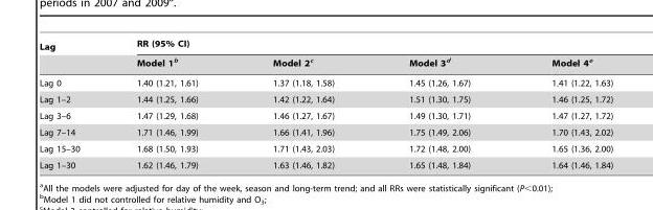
<table><thead><tr><td rowspan="2">Lag</td><td colspan="4">RR (95% CI)</td></tr><tr><td>Model 1<sup>b</sup></td><td>Model 2<sup>c</sup></td><td>Model 3<sup>d</sup></td><td>Model 4<sup>e</sup></td></tr></thead><tbody><tr><td>Lag 0</td><td>1.40 (1.21, 1.61)</td><td>1.37 (1.18, 1.58)</td><td>1.45 (1.26, 1.67)</td><td>1.41 (1.22, 1.63)</td></tr><tr><td>Lag 1–2</td><td>1.44 (1.25, 1.66)</td><td>1.42 (1.22, 1.64)</td><td>1.51 (1.30, 1.75)</td><td>1.46 (1.25, 1.72)</td></tr><tr><td>Lag 3–6</td><td>1.47 (1.29, 1.68)</td><td>1.46 (1.27, 1.67)</td><td>1.49 (1.30, 1.71)</td><td>1.47 (1.27, 1.72)</td></tr><tr><td>Lag 7–14</td><td>1.71 (1.46, 1.99)</td><td>1.66 (1.41, 1.96)</td><td>1.75 (1.49, 2.06)</td><td>1.70 (1.43, 2.02)</td></tr><tr><td>Lag 15–30</td><td>1.68 (1.50, 1.93)</td><td>1.71 (1.43, 2.03)</td><td>1.72 (1.48, 2.00)</td><td>1.65 (1.36, 2.00)</td></tr><tr><td>Lag 1–30</td><td>1.62 (1.46, 1.79)</td><td>1.63 (1.46, 1.82)</td><td>1.65 (1.48, 1.84)</td><td>1.64 (1.46, 1.84)</td></tr></tbody></table>